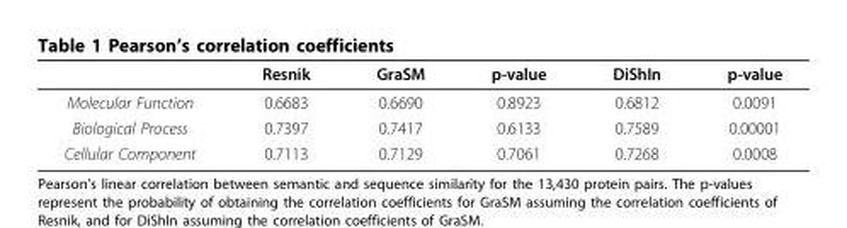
<table><thead><tr><td></td><td>Resnik</td><td>GraSM</td><td>p-value</td><td>DiShIn</td><td>p-value</td></tr></thead><tbody><tr><td>Molecular Function</td><td>0.6683</td><td>0.6690</td><td>0.8923</td><td>0.6812</td><td>0.0091</td></tr><tr><td>Biological Process</td><td>0.7397</td><td>0.7417</td><td>0.6133</td><td>0.7589</td><td>0.00001</td></tr><tr><td>Cellular Component</td><td>0.7113</td><td>0.7129</td><td>0.7061</td><td>0.7268</td><td>0.0008</td></tr></tbody></table>